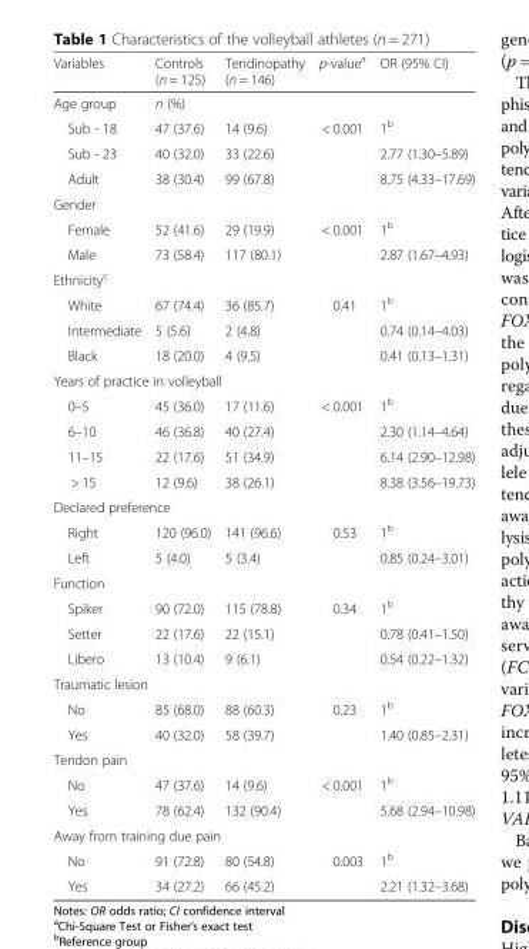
<table><thead><tr><td>Variables</td><td>Controls (n = 125)</td><td>Tendinopathy (n = 146)</td><td>p-value<sup>a</sup></td><td>OR (95% CI)</td></tr></thead><tbody><tr><td>Age group</td><td colspan="2">n (%)</td><td></td><td></td></tr><tr><td>Sub - 18</td><td>47 (37.6)</td><td>14 (9.6)</td><td rowspan="3">&lt; 0.001</td><td>1<sup>b</sup></td></tr><tr><td>Sub - 23</td><td>40 (32.0)</td><td>33 (22.6)</td><td>2.77 (1.30–5.89)</td></tr><tr><td>Adult</td><td>38 (30.4)</td><td>99 (67.8)</td><td>8.75 (4.33–17.69)</td></tr><tr><td colspan="5">Gender</td></tr><tr><td>Female</td><td>52 (41.6)</td><td>29 (19.9)</td><td rowspan="2">&lt; 0.001</td><td>1<sup>b</sup></td></tr><tr><td>Male</td><td>73 (58.4)</td><td>117 (80.1)</td><td>2.87 (1.67–4.93)</td></tr><tr><td colspan="5">Ethnicity<sup>c</sup></td></tr><tr><td>White</td><td>67 (74.4)</td><td>36 (85.7)</td><td rowspan="3">0.41</td><td>1<sup>b</sup></td></tr><tr><td>Intermediate</td><td>5 (5.6)</td><td>2 (4.8)</td><td>0.74 (0.14–4.03)</td></tr><tr><td>Black</td><td>18 (20.0)</td><td>4 (9.5)</td><td>0.41 (0.13–1.31)</td></tr><tr><td colspan="5">Years of practice in volleyball</td></tr><tr><td>0–5</td><td>45 (36.0)</td><td>17 (11.6)</td><td rowspan="4">&lt; 0.001</td><td>1<sup>b</sup></td></tr><tr><td>6–10</td><td>46 (36.8)</td><td>40 (27.4)</td><td>2.30 (1.14–4.64)</td></tr><tr><td>11–15</td><td>22 (17.6)</td><td>51 (34.9)</td><td>6.14 (2.90–12.98)</td></tr><tr><td>&gt; 15</td><td>12 (9.6)</td><td>38 (26.1)</td><td>8.38 (3.56–19.73)</td></tr><tr><td colspan="5">Declared preference</td></tr><tr><td>Right</td><td>120 (96.0)</td><td>141 (96.6)</td><td rowspan="2">0.53</td><td>1<sup>b</sup></td></tr><tr><td>Left</td><td>5 (4.0)</td><td>5 (3.4)</td><td>0.85 (0.24–3.01)</td></tr><tr><td colspan="5">Function</td></tr><tr><td>Spiker</td><td>90 (72.0)</td><td>115 (78.8)</td><td rowspan="3">0.34</td><td>1<sup>b</sup></td></tr><tr><td>Setter</td><td>22 (17.6)</td><td>22 (15.1)</td><td>0.78 (0.41–1.50)</td></tr><tr><td>Libero</td><td>13 (10.4)</td><td>9 (6.1)</td><td>0.54 (0.22–1.32)</td></tr><tr><td colspan="5">Traumatic lesion</td></tr><tr><td>No</td><td>85 (68.0)</td><td>88 (60.3)</td><td rowspan="2">0.23</td><td>1<sup>b</sup></td></tr><tr><td>Yes</td><td>40 (32.0)</td><td>58 (39.7)</td><td>1.40 (0.85–2.31)</td></tr><tr><td colspan="5">Tendon pain</td></tr><tr><td>No</td><td>47 (37.6)</td><td>14 (9.6)</td><td rowspan="2">&lt; 0.001</td><td>1<sup>b</sup></td></tr><tr><td>Yes</td><td>78 (62.4)</td><td>132 (90.4)</td><td>5.68 (2.94–10.98)</td></tr><tr><td colspan="5">Away from training due pain</td></tr><tr><td>No</td><td>91 (72.8)</td><td>80 (54.8)</td><td rowspan="2">0.003</td><td>1<sup>b</sup></td></tr><tr><td>Yes</td><td>34 (27.2)</td><td>66 (45.2)</td><td>2.21 (1.32–3.68)</td></tr></tbody></table>